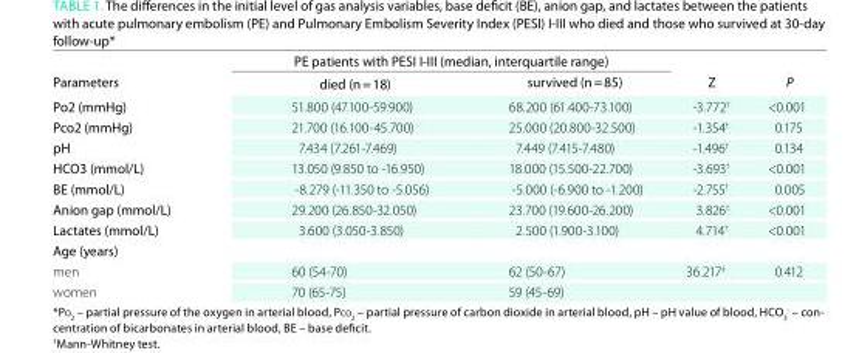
<table><thead><tr><td rowspan="2">Parameters</td><td colspan="2">Pe patients with PeSi i-iii (median, interquartile range)</td><td rowspan="2">Z</td><td rowspan="2">P</td></tr><tr><td>died (n = 18)</td><td>survived (n = 85)</td></tr></thead><tbody><tr><td>Po<sub>2</sub> (mmHg)</td><td>51.800 (47.100-59.900)</td><td>68.200 (61.400-73.100)</td><td>-3.772†</td><td>&lt;0.001</td></tr><tr><td>Pco<sub>2</sub> (mmHg)</td><td>21.700 (16.100-45.700)</td><td>25.000 (20.800-32.500)</td><td>-1.354†</td><td>0.175</td></tr><tr><td>pH</td><td>7.434 (7.261-7.469)</td><td>7.449 (7.415-7.480)</td><td>-1.496†</td><td>0.134</td></tr><tr><td>HCO<sub>3</sub> (mmol/L)</td><td>13.050 (9.850 to -16.950)</td><td>18.000 (15.500-22.700)</td><td>-3.693†</td><td>&lt;0.001</td></tr><tr><td>Be (mmol/L)</td><td>-8.279 (-11.350 to -5.056)</td><td>-5.000 (-6.900 to -1.200)</td><td>-2.755†</td><td>0.005</td></tr><tr><td>Anion gap (mmol/L)</td><td>29.200 (26.850-32.050)</td><td>23.700 (19.600-26.200)</td><td>3.826†</td><td>&lt;0.001</td></tr><tr><td>Lactates (mmol/L)</td><td>3.600 (3.050-3.850)</td><td>2.500 (1.900-3.100)</td><td>4.714†</td><td>&lt;0.001</td></tr><tr><td colspan="5">Age (years)</td></tr><tr><td>men</td><td>60 (54-70)</td><td>62 (50-67)</td><td rowspan="2">36.217‡</td><td rowspan="2">0.412</td></tr><tr><td>women</td><td>70 (65-75)</td><td>59 (45-69)</td></tr></tbody></table>